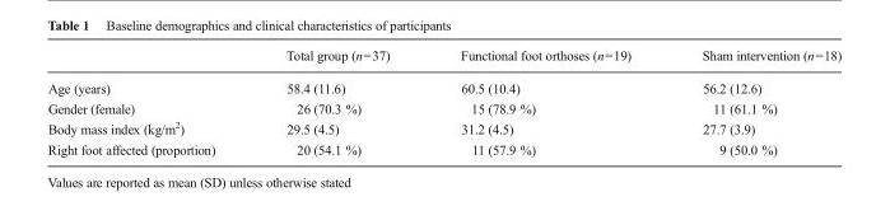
<table><thead><tr><td></td><td>Total group (n=37)</td><td>Functional foot orthoses (n=19)</td><td>Sham intervention (n=18)</td></tr></thead><tbody><tr><td>Age (years)</td><td>58.4 (11.6)</td><td>60.5 (10.4)</td><td>56.2 (12.6)</td></tr><tr><td>Gender (female)</td><td>26 (70.3 %)</td><td>15 (78.9 %)</td><td>11 (61.1 %)</td></tr><tr><td>Body mass index (kg/m<sup>2</sup>)</td><td>29.5 (4.5)</td><td>31.2 (4.5)</td><td>27.7 (3.9)</td></tr><tr><td>Right foot affected (proportion)</td><td>20 (54.1 %)</td><td>11 (57.9 %)</td><td>9 (50.0 %)</td></tr></tbody></table>